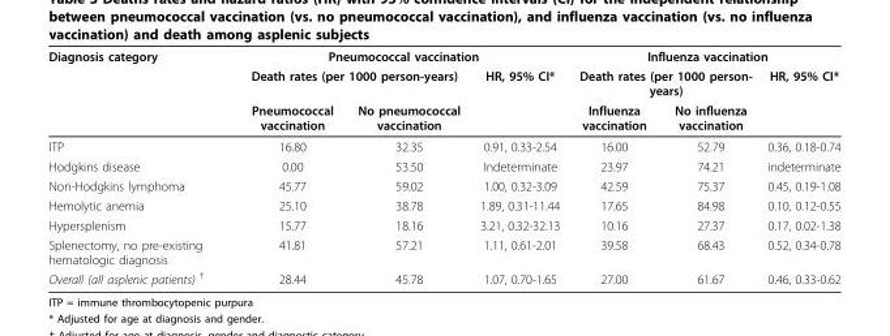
<table><thead><tr><td rowspan="3">Diagnosis category</td><td colspan="3">Pneumococcal vaccination</td><td colspan="3">Influenza vaccination</td></tr><tr><td colspan="2">Death rates (per 1000 person-years)</td><td rowspan="2">HR, 95% CI*</td><td colspan="2">Death rates (per 1000 person- years)</td><td rowspan="2">HR, 95% CI*</td></tr><tr><td>Pneumococcal vaccination</td><td>No pneumococcal vaccination</td><td>Influenza vaccination</td><td>No influenza vaccination</td></tr></thead><tbody><tr><td>ITP</td><td>16.80</td><td>32.35</td><td>0.91, 0.33-2.54</td><td>16.00</td><td>52.79</td><td>0.36, 0.18-0.74</td></tr><tr><td>Hodgkins disease</td><td>0.00</td><td>53.50</td><td>Indeterminate</td><td>23.97</td><td>74.21</td><td>indeterminate</td></tr><tr><td>Non-Hodgkins lymphoma</td><td>45.77</td><td>59.02</td><td>1.00, 0.32-3.09</td><td>42.59</td><td>75.37</td><td>0.45, 0.19-1.08</td></tr><tr><td>Hemolytic anemia</td><td>25.10</td><td>38.78</td><td>1.89, 0.31-11.44</td><td>17.65</td><td>84.98</td><td>0.10, 0.12-0.55</td></tr><tr><td>Hypersplenism</td><td>15.77</td><td>18.16</td><td>3.21, 0.32-32.13</td><td>10.16</td><td>27.37</td><td>0.17, 0.02-1.38</td></tr><tr><td>Splenectomy, no pre-existing hematologic diagnosis</td><td>41.81</td><td>57.21</td><td>1.11, 0.61-2.01</td><td>39.58</td><td>68.43</td><td>0.52, 0.34-0.78</td></tr><tr><td>Overall (all asplenic patients) <sup>†</sup></td><td>28.44</td><td>45.78</td><td>1.07, 0.70-1.65</td><td>27.00</td><td>61.67</td><td>0.46, 0.33-0.62</td></tr></tbody></table>